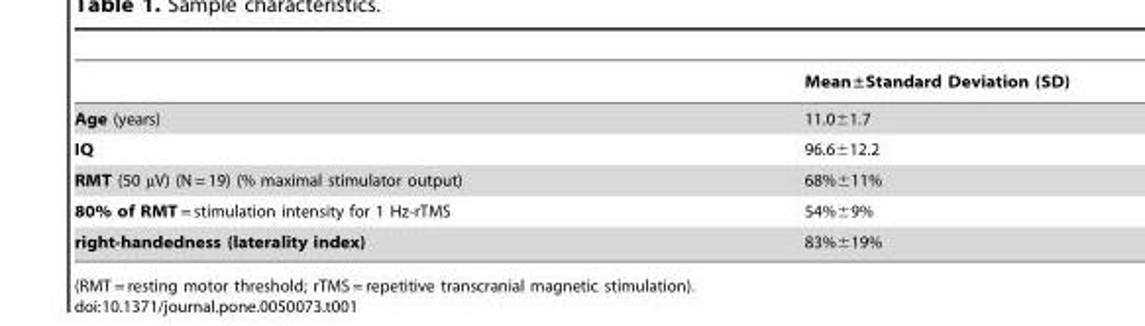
<table><thead><tr><td></td><td>Mean±Standard Deviation (SD)</td></tr></thead><tbody><tr><td>Age (years)</td><td>11.0±1.7</td></tr><tr><td>IQ</td><td>96.6±12.2</td></tr><tr><td>RMT (50 µV) (N = 19) (% maximal stimulator output)</td><td>68%±11%</td></tr><tr><td>80% of RMT = stimulation intensity for 1 Hz-rTMS</td><td>54%±9%</td></tr><tr><td>right-handedness (laterality index)</td><td>83%±19%</td></tr></tbody></table>